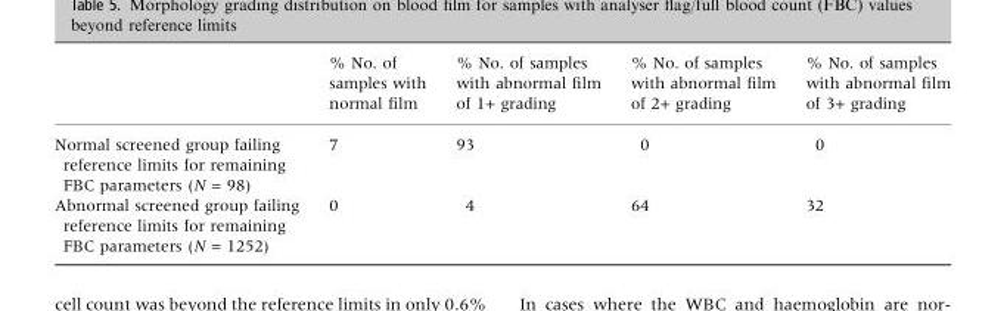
<table><thead><tr><td></td><td>% No. of samples with normal film</td><td>% No. of samples with abnormal film of 1+ grading</td><td>% No. of samples with abnormal film of 2+ grading</td><td>% No. of samples with abnormal film of 3+ grading</td></tr></thead><tbody><tr><td>Normal screened group failing reference limits for remaining FBC parameters (N = 98)</td><td>7</td><td>93</td><td>0</td><td>0</td></tr><tr><td>Abnormal screened group failing reference limits for remaining FBC parameters (N = 1252)</td><td>0</td><td>4</td><td>64</td><td>32</td></tr></tbody></table>